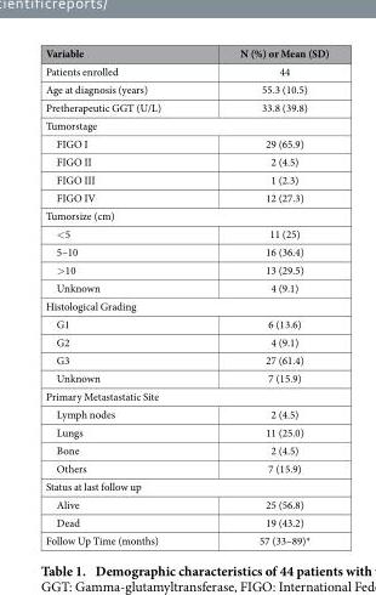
<table><thead><tr><td>Variable</td><td>N (%) or Mean (SD)</td></tr></thead><tbody><tr><td>Patients enrolled</td><td>44</td></tr><tr><td>Age at diagnosis (years)</td><td>55.3 (10.5)</td></tr><tr><td>Pretherapeutic GGT (U/L)</td><td>33.8 (39.8)</td></tr><tr><td colspan="2">Tumorstage</td></tr><tr><td>FIGO I</td><td>29 (65.9)</td></tr><tr><td>FIGO II</td><td>2 (4.5)</td></tr><tr><td>FIGO III</td><td>1 (2.3)</td></tr><tr><td>FIGO IV</td><td>12 (27.3)</td></tr><tr><td colspan="2">Tumorsize (cm)</td></tr><tr><td>&lt; 5</td><td>11 (25)</td></tr><tr><td>5–10</td><td>16 (36.4)</td></tr><tr><td>&gt;10</td><td>13 (29.5)</td></tr><tr><td>Unknown</td><td>4 (9.1)</td></tr><tr><td colspan="2">Histological Grading</td></tr><tr><td>G1</td><td>6 (13.6)</td></tr><tr><td>G2</td><td>4 (9.1)</td></tr><tr><td>G3</td><td>27 (61.4)</td></tr><tr><td>Unknown</td><td>7 (15.9)</td></tr><tr><td colspan="2">Primary Metastastatic Site</td></tr><tr><td>Lymph nodes</td><td>2 (4.5)</td></tr><tr><td>Lungs</td><td>11 (25.0)</td></tr><tr><td>Bone</td><td>2 (4.5)</td></tr><tr><td>Others</td><td>7 (15.9)</td></tr><tr><td colspan="2">Status at last follow up</td></tr><tr><td>Alive</td><td>25 (56.8)</td></tr><tr><td>Dead</td><td>19 (43.2)</td></tr><tr><td>Follow Up Time (months)</td><td>57 (33–89)*</td></tr></tbody></table>